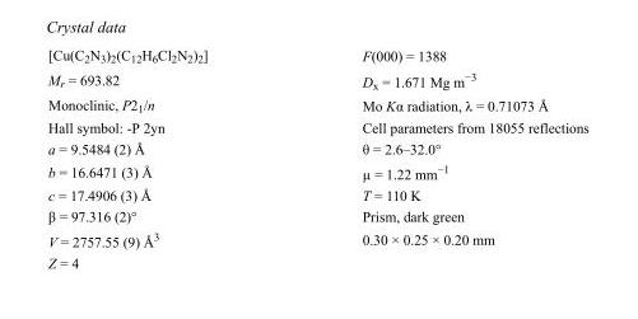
<table><tbody><tr><td>[Cu(C<sub>2</sub>N<sub>3</sub>)<sub>2</sub>(C<sub>12</sub>H<sub>6</sub>Cl<sub>2</sub>N<sub>2</sub>)<sub>2</sub>]</td><td>F(000) = 1388</td></tr><tr><td>M<sub>r</sub> = 693.82</td><td>D<sub>x</sub> = 1.671 Mg m<sup>−3</sup></td></tr><tr><td>Monoclinic, P2<sub>1</sub>/n</td><td>Mo Kα radiation, λ = 0.71073 Å</td></tr><tr><td>Hall symbol: -P 2yn</td><td>Cell parameters from 18055 reflections</td></tr><tr><td>a = 9.5484 (2) Å</td><td>θ = 2.6–32.0°</td></tr><tr><td>b = 16.6471 (3) Å</td><td>µ = 1.22 mm<sup>−1</sup></td></tr><tr><td>c = 17.4906 (3) Å</td><td>T = 110 K</td></tr><tr><td>β = 97.316 (2)°</td><td>Prism, dark green</td></tr><tr><td>V = 2757.55 (9) Å<sup>3</sup></td><td>0.30 × 0.25 × 0.20 mm</td></tr><tr><td>Z = 4</td><td></td></tr></tbody></table>